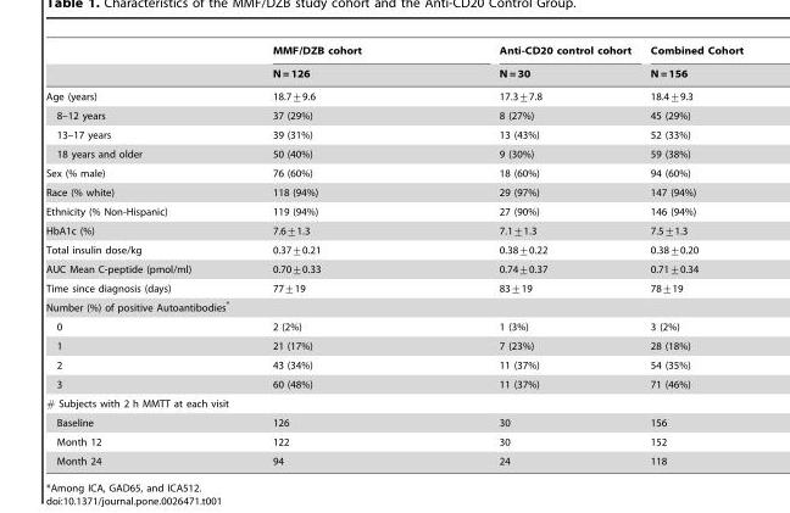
<table><thead><tr><td rowspan="2"></td><td rowspan="2">MMF/DZB cohort N = 126</td><td rowspan="2">Anti-CD20 control cohort N = 30</td><td rowspan="2">Combined Cohort N = 156</td></tr><tr></tr></thead><tbody><tr><td>Age (years)</td><td>18.7+9.6</td><td>17.3+7.8</td><td>18.4+9.3</td></tr><tr><td>8–12 years</td><td>37 (29%)</td><td>8 (27%)</td><td>45 (29%)</td></tr><tr><td>13–17 years</td><td>39 (31%)</td><td>13 (43%)</td><td>52 (33%)</td></tr><tr><td>18 years and older</td><td>50 (40%)</td><td>9 (30%)</td><td>59 (38%)</td></tr><tr><td>Sex (% male)</td><td>76 (60%)</td><td>18 (60%)</td><td>94 (60%)</td></tr><tr><td>Race (% white)</td><td>118 (94%)</td><td>29 (97%)</td><td>147 (94%)</td></tr><tr><td>Ethnicity (% Non-Hispanic)</td><td>119 (94%)</td><td>27 (90%)</td><td>146 (94%)</td></tr><tr><td>HbA1c (%)</td><td>7.6+1.3</td><td>7.1+1.3</td><td>7.5+1.3</td></tr><tr><td>Total insulin dose/kg</td><td>0.37+0.21</td><td>0.38+0.22</td><td>0.38+0.20</td></tr><tr><td>AUC Mean C-peptide (pmol/ml)</td><td>0.70+0.33</td><td>0.74+0.37</td><td>0.71+0.34</td></tr><tr><td>Time since diagnosis (days)</td><td>77+19</td><td>83+19</td><td>78+19</td></tr><tr><td colspan="4">Number (%) of positive Autoantibodies*</td></tr><tr><td>0</td><td>2 (2%)</td><td>1 (3%)</td><td>3 (2%)</td></tr><tr><td>1</td><td>21 (17%)</td><td>7 (23%)</td><td>28 (18%)</td></tr><tr><td>2</td><td>43 (34%)</td><td>11 (37%)</td><td>54 (35%)</td></tr><tr><td>3</td><td>60 (48%)</td><td>11 (37%)</td><td>71 (46%)</td></tr><tr><td colspan="4"># Subjects with 2 h MMTT at each visit</td></tr><tr><td>Baseline</td><td>126</td><td>30</td><td>156</td></tr><tr><td>Month 12</td><td>122</td><td>30</td><td>152</td></tr><tr><td>Month 24</td><td>94</td><td>24</td><td>118</td></tr></tbody></table>